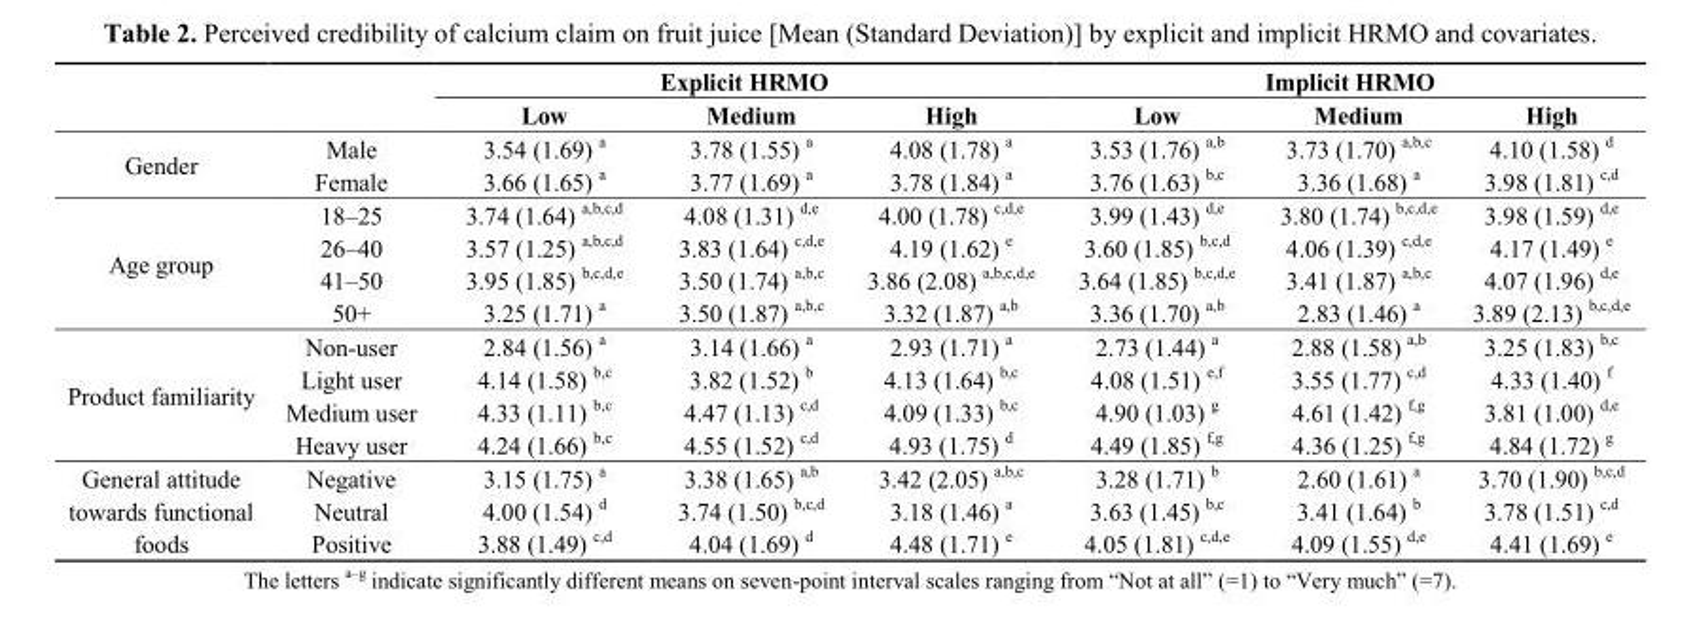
<table><thead><tr><td rowspan="2"></td><td rowspan="2"></td><td colspan="3">Explicit HRMO</td><td colspan="3">Implicit HRMO</td></tr><tr><td>Low</td><td>Medium</td><td>High</td><td>Low</td><td>Medium</td><td>High</td></tr></thead><tbody><tr><td rowspan="2">Gender</td><td>Male</td><td>3.54 (1.69) <sup>a</sup></td><td>3.78 (1.55) <sup>a</sup></td><td>4.08 (1.78) <sup>a</sup></td><td>3.53 (1.76) <sup>a,b</sup></td><td>3.73 (1.70) <sup>a,b,c</sup></td><td>4.10 (1.58) <sup>d</sup></td></tr><tr><td>Female</td><td>3.66 (1.65) <sup>a</sup></td><td>3.77 (1.69) <sup>a</sup></td><td>3.78 (1.84) <sup>a</sup></td><td>3.76 (1.63) <sup>b,c</sup></td><td>3.36 (1.68) <sup>a</sup></td><td>3.98 (1.81) <sup>c,d</sup></td></tr><tr><td rowspan="4">Age group</td><td>18–25</td><td>3.74 (1.64) <sup>a,b,c,d</sup></td><td>4.08 (1.31) <sup>d,e</sup></td><td>4.00 (1.78) <sup>c,d,e</sup></td><td>3.99 (1.43) <sup>d,e</sup></td><td>3.80 (1.74) <sup>b,c,d,e</sup></td><td>3.98 (1.59) <sup>d,e</sup></td></tr><tr><td>26–40</td><td>3.57 (1.25) <sup>a,b,c,d</sup></td><td>3.83 (1.64) <sup>c,d,e</sup></td><td>4.19 (1.62) <sup>e</sup></td><td>3.60 (1.85) <sup>b,c,d</sup></td><td>4.06 (1.39) <sup>c,d,e</sup></td><td>4.17 (1.49) <sup>e</sup></td></tr><tr><td>41–50</td><td>3.95 (1.85) <sup>b,c,d,e</sup></td><td>3.50 (1.74) <sup>a,b,c</sup></td><td>3.86 (2.08) <sup>a,b,c,d,e</sup></td><td>3.64 (1.85) <sup>b,c,d,e</sup></td><td>3.41 (1.87) <sup>a,b,c</sup></td><td>4.07 (1.96) <sup>d,e</sup></td></tr><tr><td>50+</td><td>3.25 (1.71) <sup>a</sup></td><td>3.50 (1.87) <sup>a,b,c</sup></td><td>3.32 (1.87) <sup>a,b</sup></td><td>3.36 (1.70) <sup>a,b</sup></td><td>2.83 (1.46) <sup>a</sup></td><td>3.89 (2.13) <sup>b,c,d,e</sup></td></tr><tr><td rowspan="4">Product familiarity</td><td>Non-user</td><td>2.84 (1.56) <sup>a</sup></td><td>3.14 (1.66) <sup>a</sup></td><td>2.93 (1.71) <sup>a</sup></td><td>2.73 (1.44) <sup>a</sup></td><td>2.88 (1.58) <sup>a,b</sup></td><td>3.25 (1.83) <sup>b,c</sup></td></tr><tr><td>Light user</td><td>4.14 (1.58) <sup>b,c</sup></td><td>3.82 (1.52) <sup>b</sup></td><td>4.13 (1.64) <sup>b,c</sup></td><td>4.08 (1.51) <sup>e,f</sup></td><td>3.55 (1.77) <sup>c,d</sup></td><td>4.33 (1.40) <sup>f</sup></td></tr><tr><td>Medium user</td><td>4.33 (1.11) <sup>b,c</sup></td><td>4.47 (1.13) <sup>c,d</sup></td><td>4.09 (1.33) <sup>b,c</sup></td><td>4.90 (1.03) <sup>g</sup></td><td>4.61 (1.42) <sup>f,g</sup></td><td>3.81 (1.00) <sup>d,e</sup></td></tr><tr><td>Heavy user</td><td>4.24 (1.66) <sup>b,c</sup></td><td>4.55 (1.52) <sup>c,d</sup></td><td>4.93 (1.75) <sup>d</sup></td><td>4.49 (1.85) <sup>f,g</sup></td><td>4.36 (1.25) <sup>f,g</sup></td><td>4.84 (1.72) <sup>g</sup></td></tr><tr><td rowspan="3">General attitude towards functional foods</td><td>Negative</td><td>3.15 (1.75) <sup>a</sup></td><td>3.38 (1.65) <sup>a,b</sup></td><td>3.42 (2.05) <sup>a,b,c</sup></td><td>3.28 (1.71) <sup>b</sup></td><td>2.60 (1.61) <sup>a</sup></td><td>3.70 (1.90) <sup>b,c,d</sup></td></tr><tr><td>Neutral</td><td>4.00 (1.54) <sup>d</sup></td><td>3.74 (1.50) <sup>b,c,d</sup></td><td>3.18 (1.46) <sup>a</sup></td><td>3.63 (1.45) <sup>b,c</sup></td><td>3.41 (1.64) <sup>b</sup></td><td>3.78 (1.51) <sup>c,d</sup></td></tr><tr><td>Positive</td><td>3.88 (1.49) <sup>c,d</sup></td><td>4.04 (1.69) <sup>d</sup></td><td>4.48 (1.71) <sup>e</sup></td><td>4.05 (1.81) <sup>c,d,e</sup></td><td>4.09 (1.55) <sup>d,e</sup></td><td>4.41 (1.69) <sup>e</sup></td></tr></tbody></table>